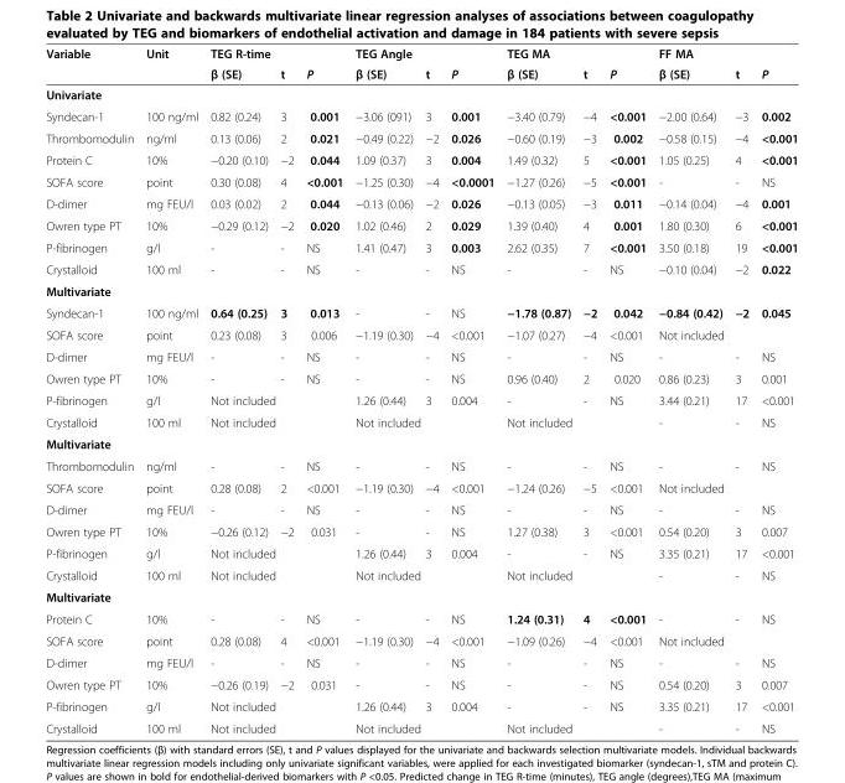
<table><thead><tr><td rowspan="2">Variable</td><td rowspan="2">Unit</td><td colspan="3">TEG R-time</td><td colspan="3">TEG Angle</td><td colspan="3">TEG MA</td><td colspan="3">FF MA</td></tr><tr><td>β (SE)</td><td>t</td><td>P</td><td>β (SE)</td><td>t</td><td>P</td><td>β (SE)</td><td>t</td><td>P</td><td>β (SE)</td><td>t</td><td>P</td></tr></thead><tbody><tr><td colspan="14">Univariate</td></tr><tr><td>Syndecan-1</td><td>100 ng/ml</td><td>0.82 (0.24)</td><td>3</td><td>0.001</td><td>−3.06 (091)</td><td>3</td><td>0.001</td><td>−3.40 (0.79)</td><td>−4</td><td>&lt;0.001</td><td>−2.00 (0.64)</td><td>−3</td><td>0.002</td></tr><tr><td>Thrombomodulin</td><td>ng/ml</td><td>0.13 (0.06)</td><td>2</td><td>0.021</td><td>−0.49 (0.22)</td><td>−2</td><td>0.026</td><td>−0.60 (0.19)</td><td>−3</td><td>0.002</td><td>−0.58 (0.15)</td><td>−4</td><td>&lt;0.001</td></tr><tr><td>Protein C</td><td>10%</td><td>−0.20 (0.10)</td><td>−2</td><td>0.044</td><td>1.09 (0.37)</td><td>3</td><td>0.004</td><td>1.49 (0.32)</td><td>5</td><td>&lt;0.001</td><td>1.05 (0.25)</td><td>4</td><td>&lt;0.001</td></tr><tr><td>SOFA score</td><td>point</td><td>0.30 (0.08)</td><td>4</td><td>&lt;0.001</td><td>−1.25 (0.30)</td><td>−4</td><td>&lt;0.0001</td><td>−1.27 (0.26)</td><td>−5</td><td>&lt;0.001</td><td>-</td><td>-</td><td>NS</td></tr><tr><td>D-dimer</td><td>mg FEU/l</td><td>0.03 (0.02)</td><td>2</td><td>0.044</td><td>−0.13 (0.06)</td><td>−2</td><td>0.026</td><td>−0.13 (0.05)</td><td>−3</td><td>0.011</td><td>−0.14 (0.04)</td><td>−4</td><td>0.001</td></tr><tr><td>Owren type PT</td><td>10%</td><td>−0.29 (0.12)</td><td>−2</td><td>0.020</td><td>1.02 (0.46)</td><td>2</td><td>0.029</td><td>1.39 (0.40)</td><td>4</td><td>0.001</td><td>1.80 (0.30)</td><td>6</td><td>&lt;0.001</td></tr><tr><td>P-fibrinogen</td><td>g/l</td><td>-</td><td>-</td><td>NS</td><td>1.41 (0.47)</td><td>3</td><td>0.003</td><td>2.62 (0.35)</td><td>7</td><td>&lt;0.001</td><td>3.50 (0.18)</td><td>19</td><td>&lt;0.001</td></tr><tr><td>Crystalloid</td><td>100 ml</td><td>-</td><td>-</td><td>NS</td><td>-</td><td>-</td><td>NS</td><td>-</td><td>-</td><td>NS</td><td>−0.10 (0.04)</td><td>−2</td><td>0.022</td></tr><tr><td colspan="14">Multivariate</td></tr><tr><td>Syndecan-1</td><td>100 ng/ml</td><td>0.64 (0.25)</td><td>3</td><td>0.013</td><td>-</td><td>-</td><td>NS</td><td>−1.78 (0.87)</td><td>−2</td><td>0.042</td><td>−0.84 (0.42)</td><td>−2</td><td>0.045</td></tr><tr><td>SOFA score</td><td>point</td><td>0.23 (0.08)</td><td>3</td><td>0.006</td><td>−1.19 (0.30)</td><td>−4</td><td>&lt;0.001</td><td>−1.07 (0.27)</td><td>−4</td><td>&lt;0.001</td><td colspan="3">Not included</td></tr><tr><td>D-dimer</td><td>mg FEU/l</td><td>-</td><td>-</td><td>NS</td><td>-</td><td>-</td><td>NS</td><td>-</td><td>-</td><td>NS</td><td>-</td><td>-</td><td>NS</td></tr><tr><td>Owren type PT</td><td>10%</td><td>-</td><td>-</td><td>NS</td><td>-</td><td>-</td><td>NS</td><td>0.96 (0.40)</td><td>2</td><td>0.020</td><td>0.86 (0.23)</td><td>3</td><td>0.001</td></tr><tr><td>P-fibrinogen</td><td>g/l</td><td colspan="3">Not included</td><td>1.26 (0.44)</td><td>3</td><td>0.004</td><td>-</td><td>-</td><td>NS</td><td>3.44 (0.21)</td><td>17</td><td>&lt;0.001</td></tr><tr><td>Crystalloid</td><td>100 ml</td><td colspan="3">Not included</td><td colspan="3">Not included</td><td colspan="3">Not included</td><td>-</td><td>-</td><td>NS</td></tr><tr><td colspan="14">Multivariate</td></tr><tr><td>Thrombomodulin</td><td>ng/ml</td><td>-</td><td>-</td><td>NS</td><td>-</td><td>-</td><td>NS</td><td>-</td><td>-</td><td>NS</td><td>-</td><td>-</td><td>NS</td></tr><tr><td>SOFA score</td><td>point</td><td>0.28 (0.08)</td><td>2</td><td>&lt;0.001</td><td>−1.19 (0.30)</td><td>−4</td><td>&lt;0.001</td><td>−1.24 (0.26)</td><td>−5</td><td>&lt;0.001</td><td colspan="3">Not included</td></tr><tr><td>D-dimer</td><td>mg FEU/l</td><td>-</td><td>-</td><td>NS</td><td>-</td><td>-</td><td>NS</td><td>-</td><td>-</td><td>NS</td><td>-</td><td>-</td><td>NS</td></tr><tr><td>Owren type PT</td><td>10%</td><td>−0.26 (0.12)</td><td>−2</td><td>0.031</td><td>-</td><td>-</td><td>NS</td><td>1.27 (0.38)</td><td>3</td><td>&lt;0.001</td><td>0.54 (0.20)</td><td>3</td><td>0.007</td></tr><tr><td>P-fibrinogen</td><td>g/l</td><td colspan="3">Not included</td><td>1.26 (0.44)</td><td>3</td><td>0.004</td><td>-</td><td>-</td><td>NS</td><td>3.35 (0.21)</td><td>17</td><td>&lt;0.001</td></tr><tr><td>Crystalloid</td><td>100 ml</td><td colspan="3">Not included</td><td colspan="3">Not included</td><td colspan="3">Not included</td><td>-</td><td>-</td><td>NS</td></tr><tr><td colspan="14">Multivariate</td></tr><tr><td>Protein C</td><td>10%</td><td>-</td><td>-</td><td>NS</td><td>-</td><td>-</td><td>NS</td><td>1.24 (0.31)</td><td>4</td><td>&lt;0.001</td><td>-</td><td>-</td><td>NS</td></tr><tr><td>SOFA score</td><td>point</td><td>0.28 (0.08)</td><td>4</td><td>&lt;0.001</td><td>−1.19 (0.30)</td><td>−4</td><td>&lt;0.001</td><td>−1.09 (0.26)</td><td>−4</td><td>&lt;0.001</td><td colspan="3">Not included</td></tr><tr><td>D-dimer</td><td>mg FEU/l</td><td>-</td><td>-</td><td>NS</td><td>-</td><td>-</td><td>NS</td><td>-</td><td>-</td><td>NS</td><td>-</td><td>-</td><td>NS</td></tr><tr><td>Owren type PT</td><td>10%</td><td>−0.26 (0.19)</td><td>−2</td><td>0.031</td><td>-</td><td>-</td><td>NS</td><td>-</td><td>-</td><td>NS</td><td>0.54 (0.20)</td><td>3</td><td>0.007</td></tr><tr><td>P-fibrinogen</td><td>g/l</td><td colspan="3">Not included</td><td>1.26 (0.44)</td><td>3</td><td>0.004</td><td>-</td><td>-</td><td>NS</td><td>3.35 (0.21)</td><td>17</td><td>&lt;0.001</td></tr><tr><td>Crystalloid</td><td>100 ml</td><td colspan="3">Not included</td><td colspan="3">Not included</td><td colspan="3">Not included</td><td>-</td><td>-</td><td>NS</td></tr></tbody></table>